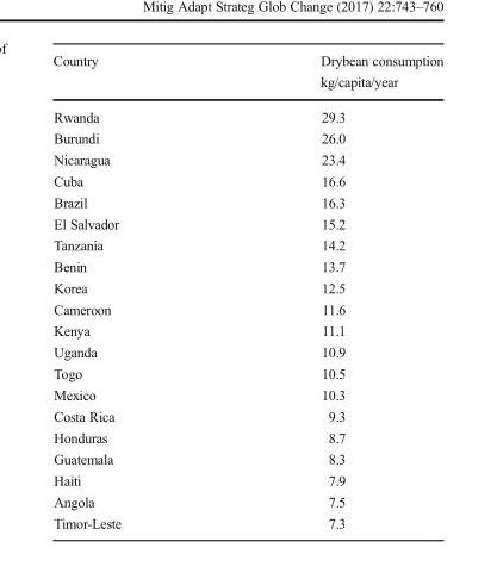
<table><thead><tr><td rowspan="2">Country</td><td rowspan="2">Drybean consumption kg/capita/year</td></tr><tr></tr></thead><tbody><tr><td>Rwanda</td><td>29.3</td></tr><tr><td>Burundi</td><td>26.0</td></tr><tr><td>Nicaragua</td><td>23.4</td></tr><tr><td>Cuba</td><td>16.6</td></tr><tr><td>Brazil</td><td>16.3</td></tr><tr><td>El Salvador</td><td>15.2</td></tr><tr><td>Tanzania</td><td>14.2</td></tr><tr><td>Benin</td><td>13.7</td></tr><tr><td>Korea</td><td>12.5</td></tr><tr><td>Cameroon</td><td>11.6</td></tr><tr><td>Kenya</td><td>11.1</td></tr><tr><td>Uganda</td><td>10.9</td></tr><tr><td>Togo</td><td>10.5</td></tr><tr><td>Mexico</td><td>10.3</td></tr><tr><td>Costa Rica</td><td>9.3</td></tr><tr><td>Honduras</td><td>8.7</td></tr><tr><td>Guatemala</td><td>8.3</td></tr><tr><td>Haiti</td><td>7.9</td></tr><tr><td>Angola</td><td>7.5</td></tr><tr><td>Timor-Leste</td><td>7.3</td></tr></tbody></table>